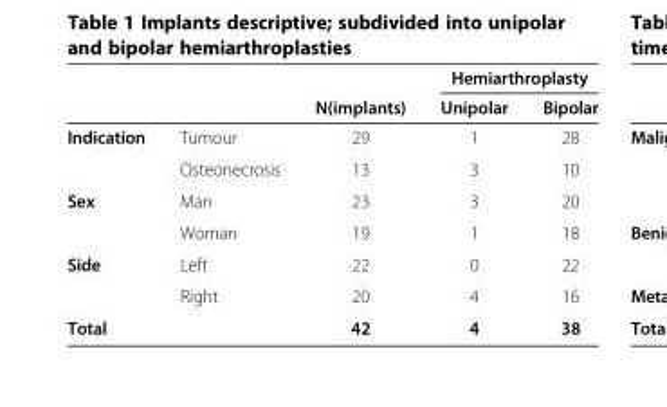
<table><thead><tr><td rowspan="2"></td><td rowspan="2"></td><td rowspan="2">N(implants)</td><td colspan="2">Hemiarthroplasty</td></tr><tr><td>Unipolar</td><td>Bipolar</td></tr></thead><tbody><tr><td rowspan="2">Indication</td><td>Tumour</td><td>29</td><td>1</td><td>28</td></tr><tr><td>Osteonecrosis</td><td>13</td><td>3</td><td>10</td></tr><tr><td rowspan="2">Sex</td><td>Man</td><td>23</td><td>3</td><td>20</td></tr><tr><td>Woman</td><td>19</td><td>1</td><td>18</td></tr><tr><td rowspan="2">Side</td><td>Left</td><td>22</td><td>0</td><td>22</td></tr><tr><td>Right</td><td>20</td><td>4</td><td>16</td></tr><tr><td>Total</td><td></td><td>42</td><td>4</td><td>38</td></tr></tbody></table>